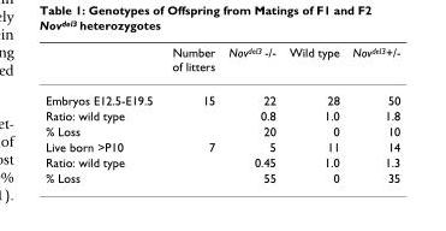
<table><thead><tr><td></td><td>Number of litters</td><td>Nov<sup>del3</sup> -/-</td><td>Wild type</td><td>Nov<sup>del3</sup>+/-</td></tr></thead><tbody><tr><td>Embryos E12.5-E19.5</td><td>15</td><td>22</td><td>28</td><td>50</td></tr><tr><td>Ratio: wild type</td><td></td><td>0.8</td><td>1.0</td><td>1.8</td></tr><tr><td>% Loss</td><td></td><td>20</td><td>0</td><td>10</td></tr><tr><td>Live born &gt;P10</td><td>7</td><td>5</td><td>11</td><td>14</td></tr><tr><td>Ratio: wild type</td><td></td><td>0.45</td><td>1.0</td><td>1.3</td></tr><tr><td>% Loss</td><td></td><td>55</td><td>0</td><td>35</td></tr></tbody></table>